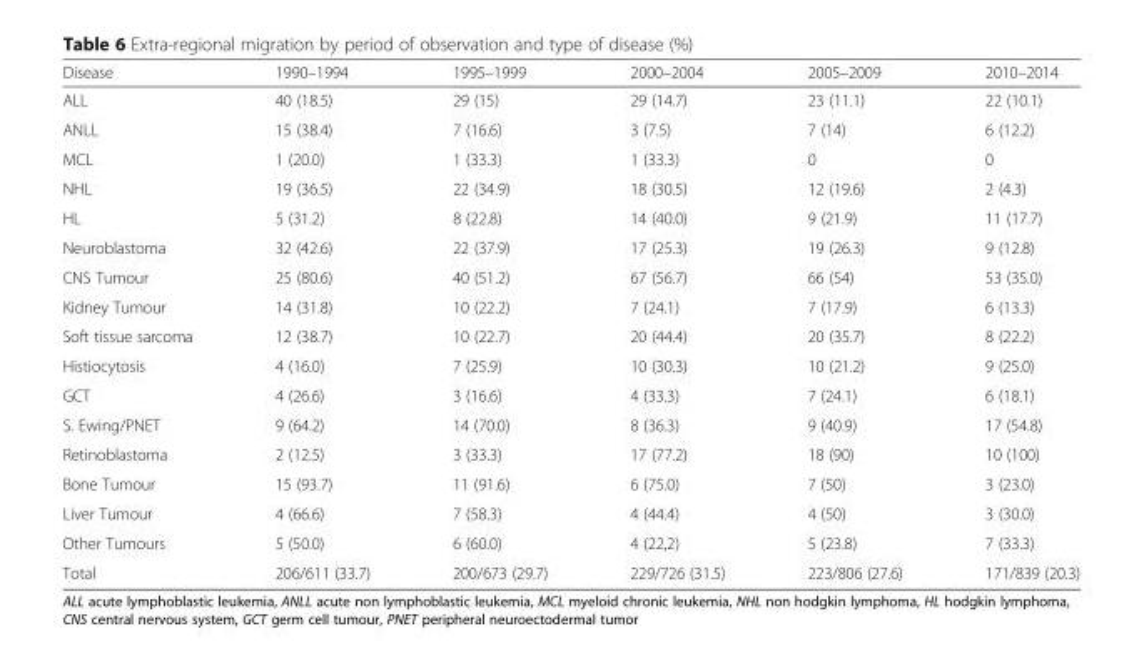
<table><thead><tr><td>Disease</td><td>1990–1994</td><td>1995–1999</td><td>2000–2004</td><td>2005–2009</td><td>2010–2014</td></tr></thead><tbody><tr><td>ALL</td><td>40 (18.5)</td><td>29 (15)</td><td>29 (14.7)</td><td>23 (11.1)</td><td>22 (10.1)</td></tr><tr><td>ANLL</td><td>15 (38.4)</td><td>7 (16.6)</td><td>3 (7.5)</td><td>7 (14)</td><td>6 (12.2)</td></tr><tr><td>MCL</td><td>1 (20.0)</td><td>1 (33.3)</td><td>1 (33.3)</td><td>0</td><td>0</td></tr><tr><td>NHL</td><td>19 (36.5)</td><td>22 (34.9)</td><td>18 (30.5)</td><td>12 (19.6)</td><td>2 (4.3)</td></tr><tr><td>HL</td><td>5 (31.2)</td><td>8 (22.8)</td><td>14 (40.0)</td><td>9 (21.9)</td><td>11 (17.7)</td></tr><tr><td>Neuroblastoma</td><td>32 (42.6)</td><td>22 (37.9)</td><td>17 (25.3)</td><td>19 (26.3)</td><td>9 (12.8)</td></tr><tr><td>CNS Tumour</td><td>25 (80.6)</td><td>40 (51.2)</td><td>67 (56.7)</td><td>66 (54)</td><td>53 (35.0)</td></tr><tr><td>Kidney Tumour</td><td>14 (31.8)</td><td>10 (22.2)</td><td>7 (24.1)</td><td>7 (17.9)</td><td>6 (13.3)</td></tr><tr><td>Soft tissue sarcoma</td><td>12 (38.7)</td><td>10 (22.7)</td><td>20 (44.4)</td><td>20 (35.7)</td><td>8 (22.2)</td></tr><tr><td>Histiocytosis</td><td>4 (16.0)</td><td>7 (25.9)</td><td>10 (30.3)</td><td>10 (21.2)</td><td>9 (25.0)</td></tr><tr><td>GCT</td><td>4 (26.6)</td><td>3 (16.6)</td><td>4 (33.3)</td><td>7 (24.1)</td><td>6 (18.1)</td></tr><tr><td>S. Ewing/PNET</td><td>9 (64.2)</td><td>14 (70.0)</td><td>8 (36.3)</td><td>9 (40.9)</td><td>17 (54.8)</td></tr><tr><td>Retinoblastoma</td><td>2 (12.5)</td><td>3 (33.3)</td><td>17 (77.2)</td><td>18 (90)</td><td>10 (100)</td></tr><tr><td>Bone Tumour</td><td>15 (93.7)</td><td>11 (91.6)</td><td>6 (75.0)</td><td>7 (50)</td><td>3 (23.0)</td></tr><tr><td>Liver Tumour</td><td>4 (66.6)</td><td>7 (58.3)</td><td>4 (44.4)</td><td>4 (50)</td><td>3 (30.0)</td></tr><tr><td>Other Tumours</td><td>5 (50.0)</td><td>6 (60.0)</td><td>4 (22,2)</td><td>5 (23.8)</td><td>7 (33.3)</td></tr><tr><td>Total</td><td>206/611 (33.7)</td><td>200/673 (29.7)</td><td>229/726 (31.5)</td><td>223/806 (27.6)</td><td>171/839 (20.3)</td></tr></tbody></table>